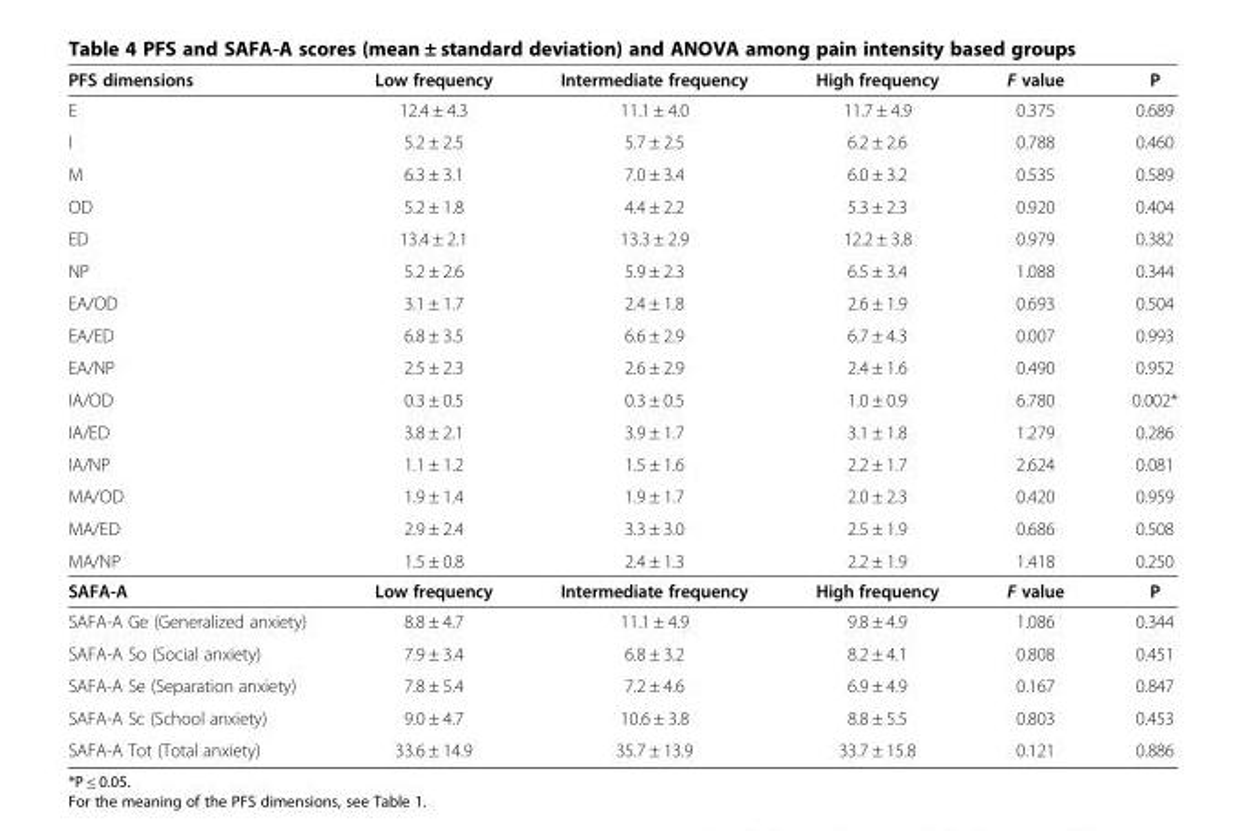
<table><thead><tr><td>PFS dimensions</td><td>Low frequency</td><td>Intermediate frequency</td><td>High frequency</td><td>F value</td><td>P</td></tr></thead><tbody><tr><td>E</td><td>12.4 ± 4.3</td><td>11.1 ± 4.0</td><td>11.7 ± 4.9</td><td>0.375</td><td>0.689</td></tr><tr><td>I</td><td>5.2 ± 2.5</td><td>5.7 ± 2.5</td><td>6.2 ± 2.6</td><td>0.788</td><td>0.460</td></tr><tr><td>M</td><td>6.3 ± 3.1</td><td>7.0 ± 3.4</td><td>6.0 ± 3.2</td><td>0.535</td><td>0.589</td></tr><tr><td>OD</td><td>5.2 ± 1.8</td><td>4.4 ± 2.2</td><td>5.3 ± 2.3</td><td>0.920</td><td>0.404</td></tr><tr><td>ED</td><td>13.4 ± 2.1</td><td>13.3 ± 2.9</td><td>12.2 ± 3.8</td><td>0.979</td><td>0.382</td></tr><tr><td>NP</td><td>5.2 ± 2.6</td><td>5.9 ± 2.3</td><td>6.5 ± 3.4</td><td>1.088</td><td>0.344</td></tr><tr><td>EA/OD</td><td>3.1 ± 1.7</td><td>2.4 ± 1.8</td><td>2.6 ± 1.9</td><td>0.693</td><td>0.504</td></tr><tr><td>EA/ED</td><td>6.8 ± 3.5</td><td>6.6 ± 2.9</td><td>6.7 ± 4.3</td><td>0.007</td><td>0.993</td></tr><tr><td>EA/NP</td><td>2.5 ± 2.3</td><td>2.6 ± 2.9</td><td>2.4 ± 1.6</td><td>0.490</td><td>0.952</td></tr><tr><td>IA/OD</td><td>0.3 ± 0.5</td><td>0.3 ± 0.5</td><td>1.0 ± 0.9</td><td>6.780</td><td>0.002*</td></tr><tr><td>IA/ED</td><td>3.8 ± 2.1</td><td>3.9 ± 1.7</td><td>3.1 ± 1.8</td><td>1.279</td><td>0.286</td></tr><tr><td>IA/NP</td><td>1.1 ± 1.2</td><td>1.5 ± 1.6</td><td>2.2 ± 1.7</td><td>2.624</td><td>0.081</td></tr><tr><td>MA/OD</td><td>1.9 ± 1.4</td><td>1.9 ± 1.7</td><td>2.0 ± 2.3</td><td>0.420</td><td>0.959</td></tr><tr><td>MA/ED</td><td>2.9 ± 2.4</td><td>3.3 ± 3.0</td><td>2.5 ± 1.9</td><td>0.686</td><td>0.508</td></tr><tr><td>MA/NP</td><td>1.5 ± 0.8</td><td>2.4 ± 1.3</td><td>2.2 ± 1.9</td><td>1.418</td><td>0.250</td></tr><tr><td>SAFA-A</td><td>Low frequency</td><td>Intermediate frequency</td><td>High frequency</td><td>F value</td><td>P</td></tr><tr><td>SAFA-A Ge (Generalized anxiety)</td><td>8.8 ± 4.7</td><td>11.1 ± 4.9</td><td>9.8 ± 4.9</td><td>1.086</td><td>0.344</td></tr><tr><td>SAFA-A So (Social anxiety)</td><td>7.9 ± 3.4</td><td>6.8 ± 3.2</td><td>8.2 ± 4.1</td><td>0.808</td><td>0.451</td></tr><tr><td>SAFA-A Se (Separation anxiety)</td><td>7.8 ± 5.4</td><td>7.2 ± 4.6</td><td>6.9 ± 4.9</td><td>0.167</td><td>0.847</td></tr><tr><td>SAFA-A Sc (School anxiety)</td><td>9.0 ± 4.7</td><td>10.6 ± 3.8</td><td>8.8 ± 5.5</td><td>0.803</td><td>0.453</td></tr><tr><td>SAFA-A Tot (Total anxiety)</td><td>33.6 ± 14.9</td><td>35.7 ± 13.9</td><td>33.7 ± 15.8</td><td>0.121</td><td>0.886</td></tr></tbody></table>